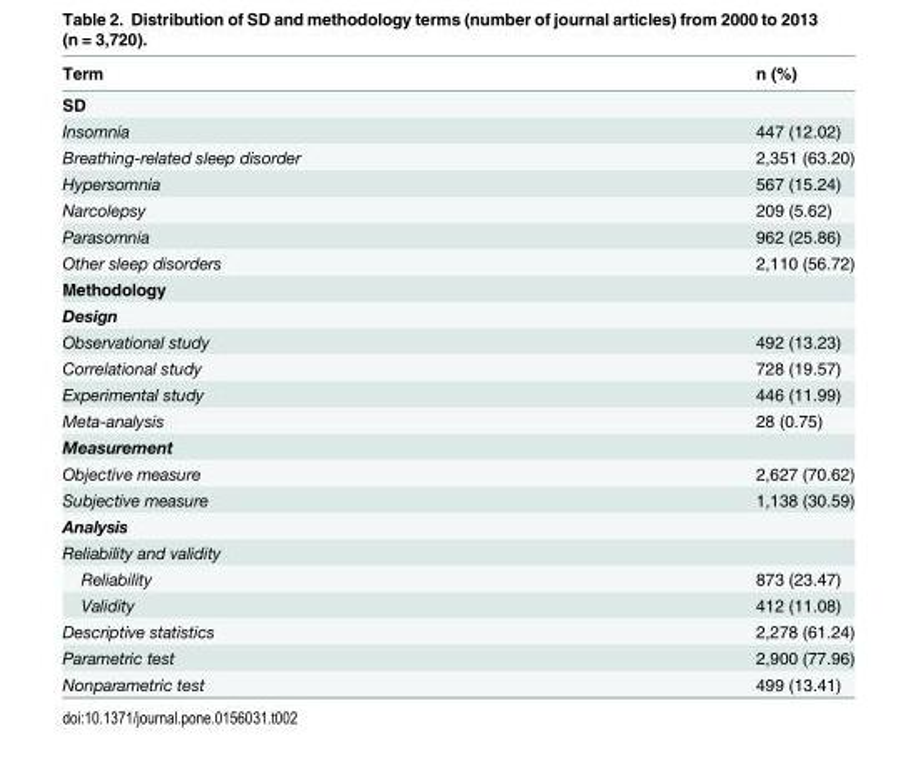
<table><thead><tr><td>Term</td><td>n (%)</td></tr></thead><tbody><tr><td colspan="2">SD</td></tr><tr><td>Insomnia</td><td>447 (12.02)</td></tr><tr><td>Breathing-related sleep disorder</td><td>2,351 (63.20)</td></tr><tr><td>Hypersomnia</td><td>567 (15.24)</td></tr><tr><td>Narcolepsy</td><td>209 (5.62)</td></tr><tr><td>Parasomnia</td><td>962 (25.86)</td></tr><tr><td>Other sleep disorders</td><td>2,110 (56.72)</td></tr><tr><td colspan="2">Methodology</td></tr><tr><td colspan="2">Design</td></tr><tr><td>Observational study</td><td>492 (13.23)</td></tr><tr><td>Correlational study</td><td>728 (19.57)</td></tr><tr><td>Experimental study</td><td>446 (11.99)</td></tr><tr><td>Meta-analysis</td><td>28 (0.75)</td></tr><tr><td colspan="2">Measurement</td></tr><tr><td>Objective measure</td><td>2,627 (70.62)</td></tr><tr><td>Subjective measure</td><td>1,138 (30.59)</td></tr><tr><td colspan="2">Analysis</td></tr><tr><td colspan="2">Reliability and validity</td></tr><tr><td>Reliability</td><td>873 (23.47)</td></tr><tr><td>Validity</td><td>412 (11.08)</td></tr><tr><td>Descriptive statistics</td><td>2,278 (61.24)</td></tr><tr><td>Parametric test</td><td>2,900 (77.96)</td></tr><tr><td>Nonparametric test</td><td>499 (13.41)</td></tr></tbody></table>